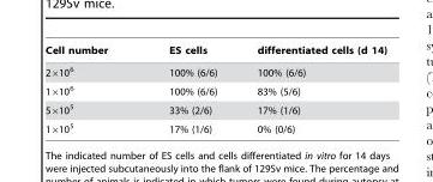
<table><thead><tr><td>Cell number</td><td>ES cells</td><td>differentiated cells (d 14)</td></tr></thead><tbody><tr><td>2×10<sup>6</sup></td><td>100% (6/6)</td><td>100% (6/6)</td></tr><tr><td>1×10<sup>6</sup></td><td>100% (6/6)</td><td>83% (5/6)</td></tr><tr><td>5×10<sup>5</sup></td><td>33% (2/6)</td><td>17% (1/6)</td></tr><tr><td>1×10<sup>5</sup></td><td>17% (1/6)</td><td>0% (0/6)</td></tr></tbody></table>